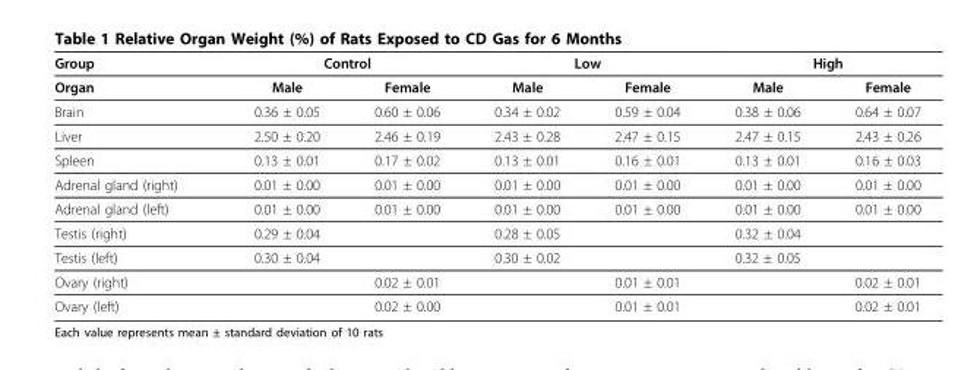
<table><thead><tr><td rowspan="2">Group Organ</td><td colspan="2">Control</td><td colspan="2">Low</td><td colspan="2">High</td></tr><tr><td>Male</td><td>Female</td><td>Male</td><td>Female</td><td>Male</td><td>Female</td></tr></thead><tbody><tr><td>Brain</td><td>0.36 ± 0.05</td><td>0.60 ± 0.06</td><td>0.34 ± 0.02</td><td>0.59 ± 0.04</td><td>0.38 ± 0.06</td><td>0.64 ± 0.07</td></tr><tr><td>Liver</td><td>2.50 ± 0.20</td><td>2.46 ± 0.19</td><td>2.43 ± 0.28</td><td>2.47 ± 0.15</td><td>2.47 ± 0.15</td><td>2.43 ± 0.26</td></tr><tr><td>Spleen</td><td>0.13 ± 0.01</td><td>0.17 ± 0.02</td><td>0.13 ± 0.01</td><td>0.16 ± 0.01</td><td>0.13 ± 0.01</td><td>0.16 ± 0.03</td></tr><tr><td>Adrenal gland (right)</td><td>0.01 ± 0.00</td><td>0.01 ± 0.00</td><td>0.01 ± 0.00</td><td>0.01 ± 0.00</td><td>0.01 ± 0.00</td><td>0.01 ± 0.00</td></tr><tr><td>Adrenal gland (left)</td><td>0.01 ± 0.00</td><td>0.01 ± 0.00</td><td>0.01 ± 0.00</td><td>0.01 ± 0.00</td><td>0.01 ± 0.00</td><td>0.01 ± 0.00</td></tr><tr><td>Testis (right)</td><td>0.29 ± 0.04</td><td></td><td>0.28 ± 0.05</td><td></td><td>0.32 ± 0.04</td><td></td></tr><tr><td>Testis (left)</td><td>0.30 ± 0.04</td><td></td><td>0.30 ± 0.02</td><td></td><td>0.32 ± 0.05</td><td></td></tr><tr><td>Ovary (right)</td><td></td><td>0.02 ± 0.01</td><td></td><td>0.01 ± 0.01</td><td></td><td>0.02 ± 0.01</td></tr><tr><td>Ovary (left)</td><td></td><td>0.02 ± 0.00</td><td></td><td>0.01 ± 0.01</td><td></td><td>0.02 ± 0.01</td></tr></tbody></table>